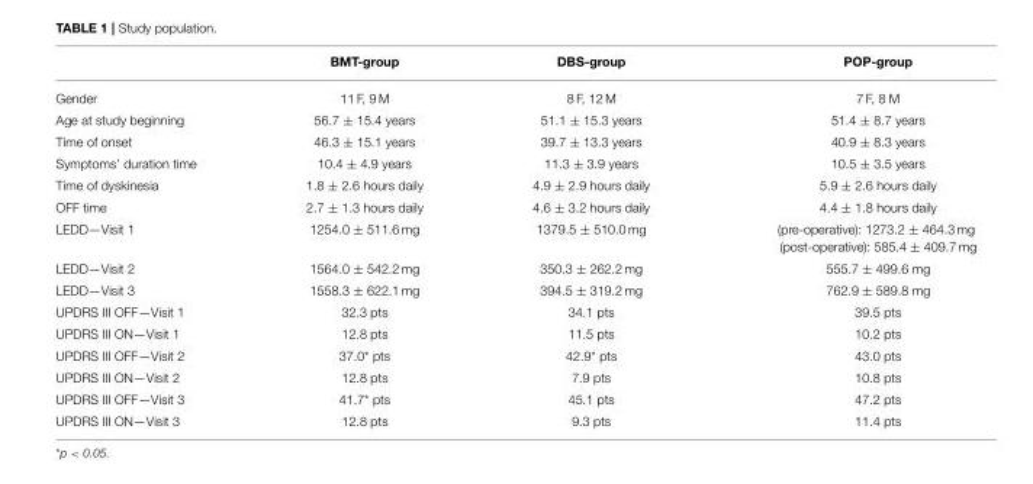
<table><thead><tr><td></td><td>BMT-group</td><td>DBS-group</td><td>POP-group</td></tr></thead><tbody><tr><td>Gender</td><td>11 F, 9 M</td><td>8 F, 12 M</td><td>7 F, 8 M</td></tr><tr><td>Age at study beginning</td><td>56.7 ± 15.4 years</td><td>51.1 ± 15.3 years</td><td>51.4 ± 8.7 years</td></tr><tr><td>Time of onset</td><td>46.3 ± 15.1 years</td><td>39.7 ± 13.3 years</td><td>40.9 ± 8.3 years</td></tr><tr><td>Symptoms’ duration time</td><td>10.4 ± 4.9 years</td><td>11.3 ± 3.9 years</td><td>10.5 ± 3.5 years</td></tr><tr><td>Time of dyskinesia</td><td>1.8 ± 2.6 hours daily</td><td>4.9 ± 2.9 hours daily</td><td>5.9 ± 2.6 hours daily</td></tr><tr><td>OFF time</td><td>2.7 ± 1.3 hours daily</td><td>4.6 ± 3.2 hours daily</td><td>4.4 ± 1.8 hours daily</td></tr><tr><td>LEDD—Visit 1</td><td>1254.0 ± 511.6 mg</td><td>1379.5 ± 510.0 mg</td><td>(pre-operative): 1273.2 ± 464.3 mg (post-operative): 585.4 ± 409.7 mg</td></tr><tr><td>LEDD—Visit 2</td><td>1564.0 ± 542.2 mg</td><td>350.3 ± 262.2 mg</td><td>555.7 ± 499.6 mg</td></tr><tr><td>LEDD—Visit 3</td><td>1558.3 ± 622.1 mg</td><td>394.5 ± 319.2 mg</td><td>762.9 ± 589.8 mg</td></tr><tr><td>UPDRS III OFF—Visit 1</td><td>32.3 pts</td><td>34.1 pts</td><td>39.5 pts</td></tr><tr><td>UPDRS III ON—Visit 1</td><td>12.8 pts</td><td>11.5 pts</td><td>10.2 pts</td></tr><tr><td>UPDRS III OFF—Visit 2</td><td>37.0* pts</td><td>42.9* pts</td><td>43.0 pts</td></tr><tr><td>UPDRS III ON—Visit 2</td><td>12.8 pts</td><td>7.9 pts</td><td>10.8 pts</td></tr><tr><td>UPDRS III OFF—Visit 3</td><td>41.7* pts</td><td>45.1 pts</td><td>47.2 pts</td></tr><tr><td>UPDRS III ON—Visit 3</td><td>12.8 pts</td><td>9.3 pts</td><td>11.4 pts</td></tr></tbody></table>